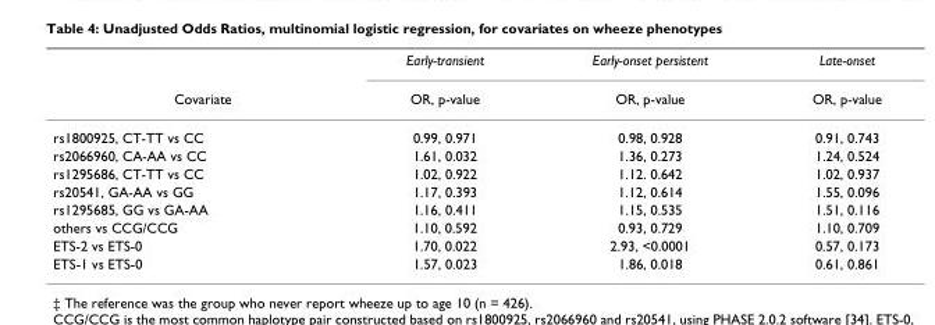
<table><thead><tr><td rowspan="2">Covariate</td><td rowspan="2">Early-transient OR, p-value</td><td rowspan="2">Early-onset persistent OR, p-value</td><td rowspan="2">Late-onset OR, p-value</td></tr><tr></tr></thead><tbody><tr><td>rs1800925, CT-TT vs CC</td><td>0.99, 0.971</td><td>0.98, 0.928</td><td>0.91, 0.743</td></tr><tr><td>rs2066960, CA-AA vs CC</td><td>1.61, 0.032</td><td>1.36, 0.273</td><td>1.24, 0.524</td></tr><tr><td>rs1295686, CT-TT vs CC</td><td>1.02, 0.922</td><td>1.12. 0.642</td><td>1.02, 0.937</td></tr><tr><td>rs20541, GA-AA vs GG</td><td>1.17, 0.393</td><td>1.12, 0.614</td><td>1.55, 0.096</td></tr><tr><td>rs1295685, GG vs GA-AA</td><td>1.16, 0.411</td><td>1.15, 0.535</td><td>1.51, 0.116</td></tr><tr><td>others vs CCG/CCG</td><td>1.10, 0.592</td><td>0.93, 0.729</td><td>1.10, 0.709</td></tr><tr><td>ETS-2 vs ETS-0</td><td>1.70, 0.022</td><td>2.93, &lt;0.0001</td><td>0.57, 0.173</td></tr><tr><td>ETS-1 vs ETS-0</td><td>1.57, 0.023</td><td>1.86, 0.018</td><td>0.61, 0.861</td></tr></tbody></table>